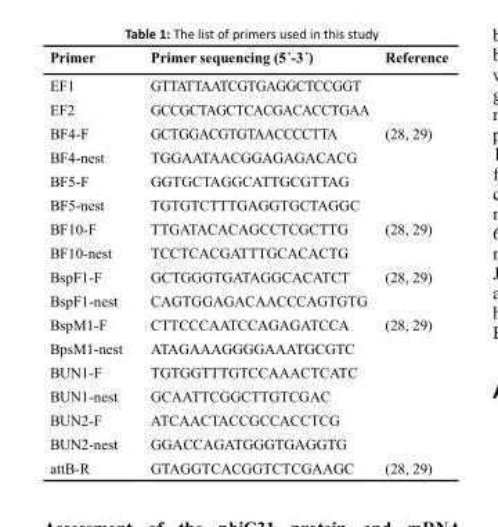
<table><thead><tr><td>Primer</td><td>Primer sequencing (5´-3´)</td><td>Reference</td></tr></thead><tbody><tr><td>EF1</td><td>GTTATTAATCGTGAGGCTCCGGT</td><td></td></tr><tr><td>EF2</td><td>GCCGCTAGCTCACGACACCTGAA</td><td></td></tr><tr><td>BF4-F</td><td>GCTGGACGTGTAACCCCTTA</td><td>(28, 29)</td></tr><tr><td>BF4-nest</td><td>TGGAATAACGGAGAGACACG</td><td></td></tr><tr><td>BF5-F</td><td>GGTGCTAGGCATTGCGTTAG</td><td></td></tr><tr><td>BF5-nest</td><td>TGTGTCTTTGAGGTGCTAGGC</td><td></td></tr><tr><td>BF10-F</td><td>TTGATACACAGCCTCGCTTG</td><td>(28, 29)</td></tr><tr><td>BF10-nest</td><td>TCCTCACGATTTGCACACTG</td><td></td></tr><tr><td>BspF1-F</td><td>GCTGGGTGATAGGCACATCT</td><td>(28, 29)</td></tr><tr><td>BspF1-nest</td><td>CAGTGGAGACAACCCAGTGTG</td><td></td></tr><tr><td>BspM1-F</td><td>CTTCCCAATCCAGAGATCCA</td><td>(28, 29)</td></tr><tr><td>BpsM1-nest</td><td>ATAGAAAGGGGAAATGCGTC</td><td></td></tr><tr><td>BUN1-F</td><td>TGTGGTTTGTCCAAACTCATC</td><td></td></tr><tr><td>BUN1-nest</td><td>GCAATTCGGCTTGTCGAC</td><td></td></tr><tr><td>BUN2-F</td><td>ATCAACTACCGCCACCTCG</td><td></td></tr><tr><td>BUN2-nest</td><td>GGACCAGATGGGTGAGGTG</td><td></td></tr><tr><td>attB-R</td><td>GTAGGTCACGGTCTCGAAGC</td><td>(28, 29)</td></tr></tbody></table>